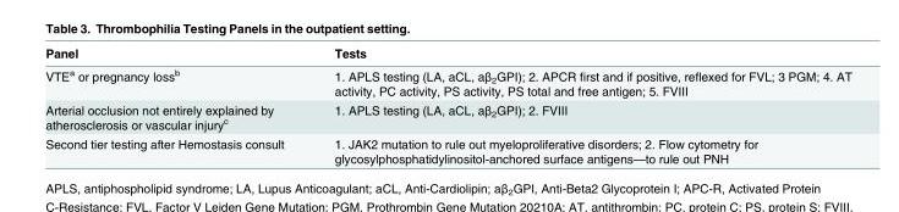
<table><thead><tr><td>Panel</td><td>Tests</td></tr></thead><tbody><tr><td>VTE<sup>a</sup> or pregnancy loss<sup>b</sup></td><td>1. APLS testing (LA, aCL, aβ<sub>2</sub>GPI); 2. APCR first and if positive, reflexed for FVL; 3 PGM; 4. AT activity, PC activity, PS activity, PS total and free antigen; 5. FVIII</td></tr><tr><td>Arterial occlusion not entirely explained by atherosclerosis or vascular injury<sup>c</sup></td><td>1. APLS testing (LA, aCL, aβ<sub>2</sub>GPI); 2. FVIII</td></tr><tr><td>Second tier testing after Hemostasis consult</td><td>1. JAK2 mutation to rule out myeloproliferative disorders; 2. Flow cytometry for glycosylphosphatidylinositol-anchored surface antigens—to rule out PNH</td></tr></tbody></table>